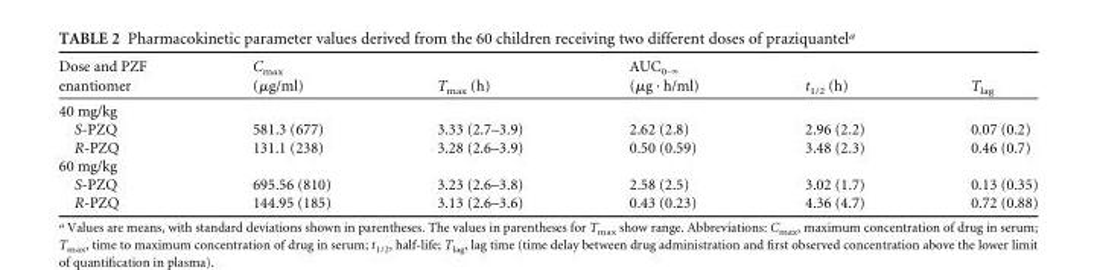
<table><thead><tr><td>Dose and PZF enantiomer</td><td>C<sub>max</sub> (µg/ml)</td><td>T<sub>max</sub> (h)</td><td>AUC0-∞ (µg · h/ml)</td><td>t<sub>1/2</sub> (h)</td><td>T<sub>lag</sub></td></tr></thead><tbody><tr><td colspan="6">40 mg/kg</td></tr><tr><td>S-PZQ</td><td>581.3 (677)</td><td>3.33 (2.7–3.9)</td><td>2.62 (2.8)</td><td>2.96 (2.2)</td><td>0.07 (0.2)</td></tr><tr><td>R-PZQ</td><td>131.1 (238)</td><td>3.28 (2.6–3.9)</td><td>0.50 (0.59)</td><td>3.48 (2.3)</td><td>0.46 (0.7)</td></tr><tr><td colspan="6">60 mg/kg</td></tr><tr><td>S-PZQ</td><td>695.56 (810)</td><td>3.23 (2.6–3.8)</td><td>2.58 (2.5)</td><td>3.02 (1.7)</td><td>0.13 (0.35)</td></tr><tr><td>R-PZQ</td><td>144.95 (185)</td><td>3.13 (2.6–3.6)</td><td>0.43 (0.23)</td><td>4.36 (4.7)</td><td>0.72 (0.88)</td></tr></tbody></table>